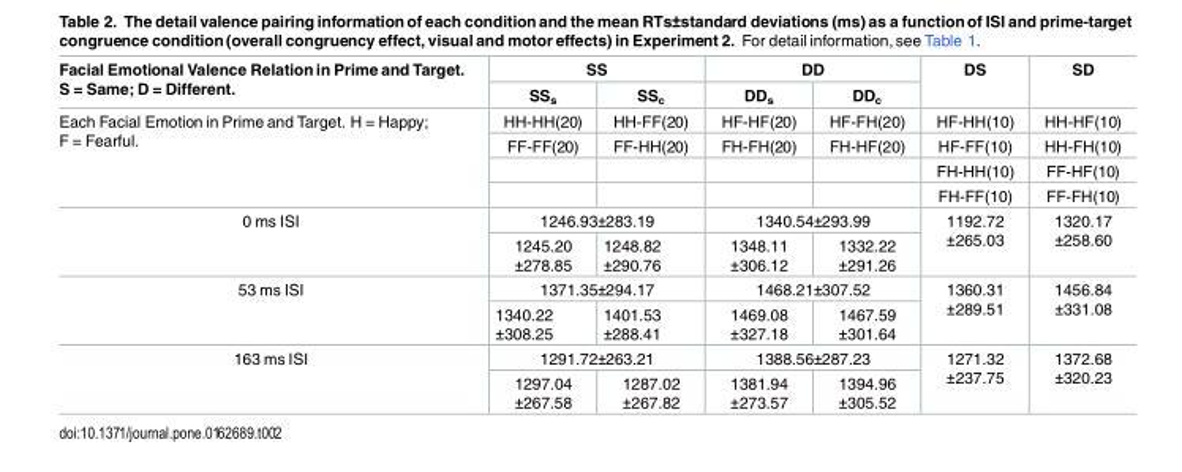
<table><thead><tr><td rowspan="2">Facial Emotional Valence Relation in Prime and Target. S = Same; D = Different.</td><td colspan="2">SS</td><td colspan="2">DD</td><td rowspan="2">DS</td><td rowspan="2">SD</td></tr><tr><td>SS<sub>s</sub></td><td>SS<sub>c</sub></td><td>DD<sub>s</sub></td><td>DD<sub>c</sub></td></tr></thead><tbody><tr><td rowspan="4">Each Facial Emotion in Prime and Target. H = Happy; F = Fearful.</td><td>HH-HH(20)</td><td>HH-FF(20)</td><td>HF-HF(20)</td><td>HF-FH(20)</td><td>HF-HH(10)</td><td>HH-HF(10)</td></tr><tr><td>FF-FF(20)</td><td>FF-HH(20)</td><td>FH-FH(20)</td><td>FH-HF(20)</td><td>HF-FF(10)</td><td>HH-FH(10)</td></tr><tr><td></td><td></td><td></td><td></td><td>FH-HH(10)</td><td>FF-HF(10)</td></tr><tr><td></td><td></td><td></td><td></td><td>FH-FF(10)</td><td>FF-FH(10)</td></tr><tr><td rowspan="2">0 ms ISI</td><td colspan="2">1246.93±283.19</td><td colspan="2">1340.54±293.99</td><td rowspan="2">1192.72 ±265.03</td><td rowspan="2">1320.17 ±258.60</td></tr><tr><td>1245.20 ±278.85</td><td>1248.82 ±290.76</td><td>1348.11 ±306.12</td><td>1332.22 ±291.26</td></tr><tr><td rowspan="2">53 ms ISI</td><td colspan="2">1371.35±294.17</td><td colspan="2">1468.21±307.52</td><td rowspan="2">1360.31 ±289.51</td><td rowspan="2">1456.84 ±331.08</td></tr><tr><td>1340.22 ±308.25</td><td>1401.53 ±288.41</td><td>1469.08 ±327.18</td><td>1467.59 ±301.64</td></tr><tr><td rowspan="2">163 ms ISI</td><td colspan="2">1291.72±263.21</td><td colspan="2">1388.56±287.23</td><td rowspan="2">1271.32 ±237.75</td><td rowspan="2">1372.68 ±320.23</td></tr><tr><td>1297.04 ±267.58</td><td>1287.02 ±267.82</td><td>1381.94 ±273.57</td><td>1394.96 ±305.52</td></tr></tbody></table>